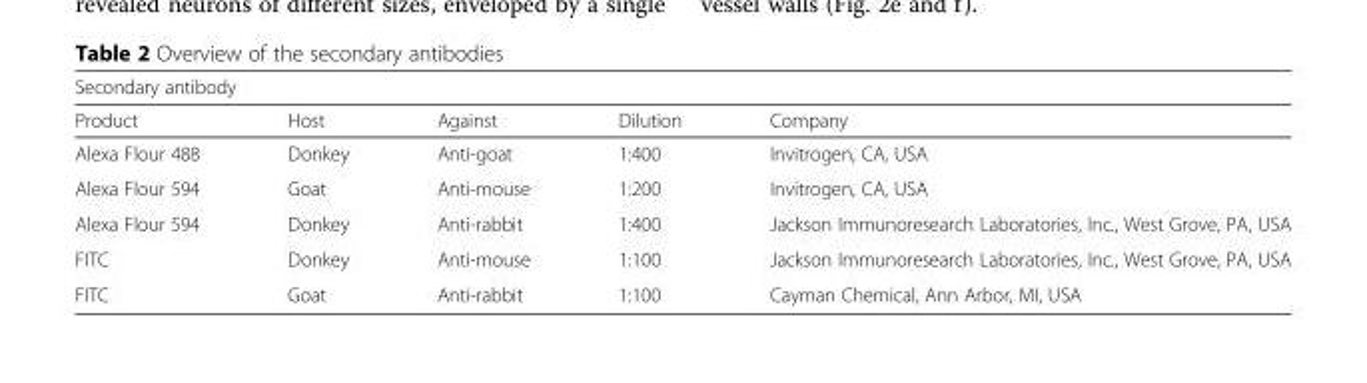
<table><thead><tr><td colspan="5">Secondary antibody</td></tr><tr><td>Product</td><td>Host</td><td>Against</td><td>Dilution</td><td>Company</td></tr></thead><tbody><tr><td>Alexa Flour 488</td><td>Donkey</td><td>Anti-goat</td><td>1:400</td><td>Invitrogen, CA, USA</td></tr><tr><td>Alexa Flour 594</td><td>Goat</td><td>Anti-mouse</td><td>1:200</td><td>Invitrogen, CA, USA</td></tr><tr><td>Alexa Flour 594</td><td>Donkey</td><td>Anti-rabbit</td><td>1:400</td><td>Jackson Immunoresearch Laboratories, Inc., West Grove, PA, USA</td></tr><tr><td>FITC</td><td>Donkey</td><td>Anti-mouse</td><td>1:100</td><td>Jackson Immunoresearch Laboratories, Inc., West Grove, PA, USA</td></tr><tr><td>FITC</td><td>Goat</td><td>Anti-rabbit</td><td>1:100</td><td>Cayman Chemical, Ann Arbor, MI, USA</td></tr></tbody></table>